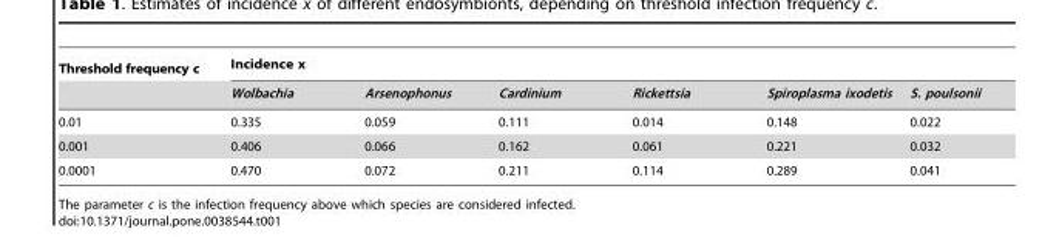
<table><thead><tr><td rowspan="2">Threshold frequency c</td><td colspan="6">Incidence x</td></tr><tr><td>Wolbachia</td><td>Arsenophonus</td><td>Cardinium</td><td>Rickettsia</td><td>Spiroplasma ixodetis</td><td>S. poulsonii</td></tr></thead><tbody><tr><td>0.01</td><td>0.335</td><td>0.059</td><td>0.111</td><td>0.014</td><td>0.148</td><td>0.022</td></tr><tr><td>0.001</td><td>0.406</td><td>0.066</td><td>0.162</td><td>0.061</td><td>0.221</td><td>0.032</td></tr><tr><td>0.0001</td><td>0.470</td><td>0.072</td><td>0.211</td><td>0.114</td><td>0.289</td><td>0.041</td></tr></tbody></table>